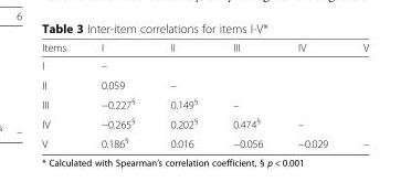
<table><thead><tr><td>Items</td><td>I</td><td>II</td><td>III</td><td>IV</td><td>V</td></tr></thead><tbody><tr><td>I</td><td>–</td><td></td><td></td><td></td><td></td></tr><tr><td>II</td><td>0.059</td><td>–</td><td></td><td></td><td></td></tr><tr><td>III</td><td>−0.227<sup>§</sup></td><td>0.149<sup>§</sup></td><td>–</td><td></td><td></td></tr><tr><td>IV</td><td>−0.265<sup>§</sup></td><td>0.202<sup>§</sup></td><td>0.474<sup>§</sup></td><td>–</td><td></td></tr><tr><td>V</td><td>0.186<sup>§</sup></td><td>0.016</td><td>−0.056</td><td>−0.029</td><td>–</td></tr></tbody></table>